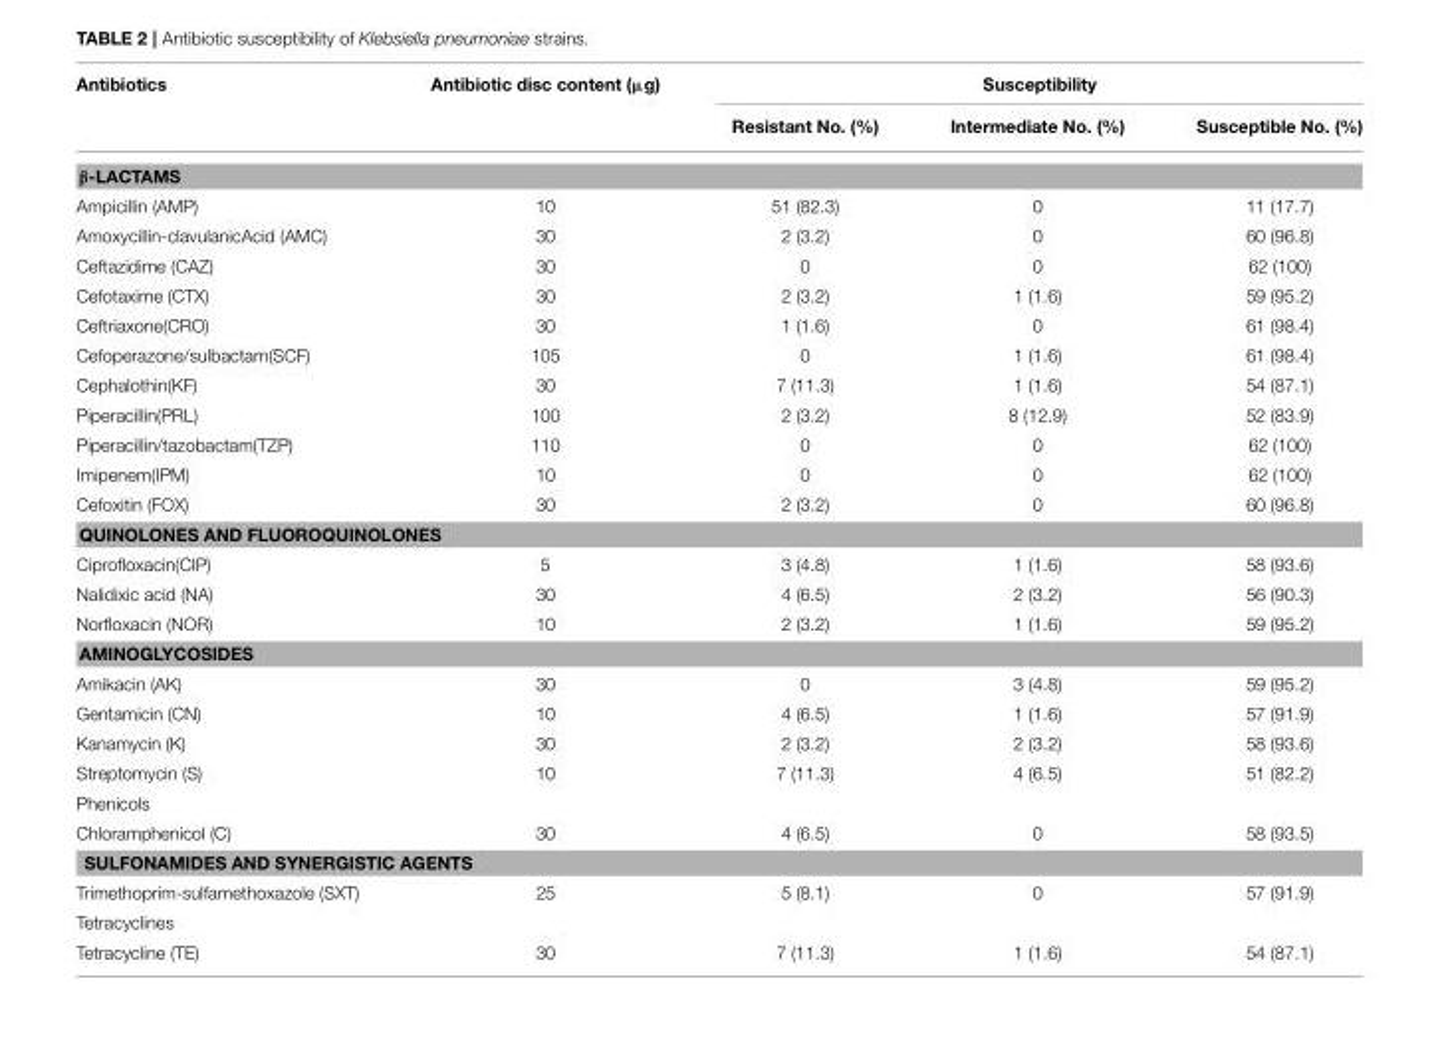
<table><thead><tr><td rowspan="2">Antibiotics</td><td rowspan="2">Antibiotic disc content (µg)</td><td colspan="3">Susceptibility</td></tr><tr><td>Resistant No. (%)</td><td>Intermediate No. (%)</td><td>Susceptible No. (%)</td></tr></thead><tbody><tr><td colspan="5">β-LACTAMS</td></tr><tr><td>Ampicillin (AMP)</td><td>10</td><td>51 (82.3)</td><td>0</td><td>11 (17.7)</td></tr><tr><td>Amoxycillin-clavulanicAcid (AMC)</td><td>30</td><td>2 (3.2)</td><td>0</td><td>60 (96.8)</td></tr><tr><td>Ceftazidime (CAZ)</td><td>30</td><td>0</td><td>0</td><td>62 (100)</td></tr><tr><td>Cefotaxime (CTX)</td><td>30</td><td>2 (3.2)</td><td>1 (1.6)</td><td>59 (95.2)</td></tr><tr><td>Ceftriaxone(CRO)</td><td>30</td><td>1 (1.6)</td><td>0</td><td>61 (98.4)</td></tr><tr><td>Cefoperazone/sulbactam(SCF)</td><td>105</td><td>0</td><td>1 (1.6)</td><td>61 (98.4)</td></tr><tr><td>Cephalothin(KF)</td><td>30</td><td>7 (11.3)</td><td>1 (1.6)</td><td>54 (87.1)</td></tr><tr><td>Piperacillin(PRL)</td><td>100</td><td>2 (3.2)</td><td>8 (12.9)</td><td>52 (83.9)</td></tr><tr><td>Piperacillin/tazobactam(TZP)</td><td>110</td><td>0</td><td>0</td><td>62 (100)</td></tr><tr><td>Imipenem(IPM)</td><td>10</td><td>0</td><td>0</td><td>62 (100)</td></tr><tr><td>Cefoxitin (FOX)</td><td>30</td><td>2 (3.2)</td><td>0</td><td>60 (96.8)</td></tr><tr><td colspan="5">QUINOLONES AND FLUOROQUINOLONES</td></tr><tr><td>Ciprofloxacin(CIP)</td><td>5</td><td>3 (4.8)</td><td>1 (1.6)</td><td>58 (93.6)</td></tr><tr><td>Nalidixic acid (NA)</td><td>30</td><td>4 (6.5)</td><td>2 (3.2)</td><td>56 (90.3)</td></tr><tr><td>Norfloxacin (NOR)</td><td>10</td><td>2 (3.2)</td><td>1 (1.6)</td><td>59 (95.2)</td></tr><tr><td colspan="5">AMINOGLYCOSIDES</td></tr><tr><td>Amikacin (AK)</td><td>30</td><td>0</td><td>3 (4.8)</td><td>59 (95.2)</td></tr><tr><td>Gentamicin (CN)</td><td>10</td><td>4 (6.5)</td><td>1 (1.6)</td><td>57 (91.9)</td></tr><tr><td>Kanamycin (K)</td><td>30</td><td>2 (3.2)</td><td>2 (3.2)</td><td>58 (93.6)</td></tr><tr><td>Streptomycin (S)</td><td>10</td><td>7 (11.3)</td><td>4 (6.5)</td><td>51 (82.2)</td></tr><tr><td colspan="5">Phenicols</td></tr><tr><td>Chloramphenicol (C)</td><td>30</td><td>4 (6.5)</td><td>0</td><td>58 (93.5)</td></tr><tr><td colspan="5">SULFONAMIDES AND SYNERGISTIC AGENTS</td></tr><tr><td>Trimethoprim-sulfamethoxazole (SXT)</td><td>25</td><td>5 (8.1)</td><td>0</td><td>57 (91.9)</td></tr><tr><td colspan="5">Tetracyclines</td></tr><tr><td>Tetracycline (TE)</td><td>30</td><td>7 (11.3)</td><td>1 (1.6)</td><td>54 (87.1)</td></tr></tbody></table>